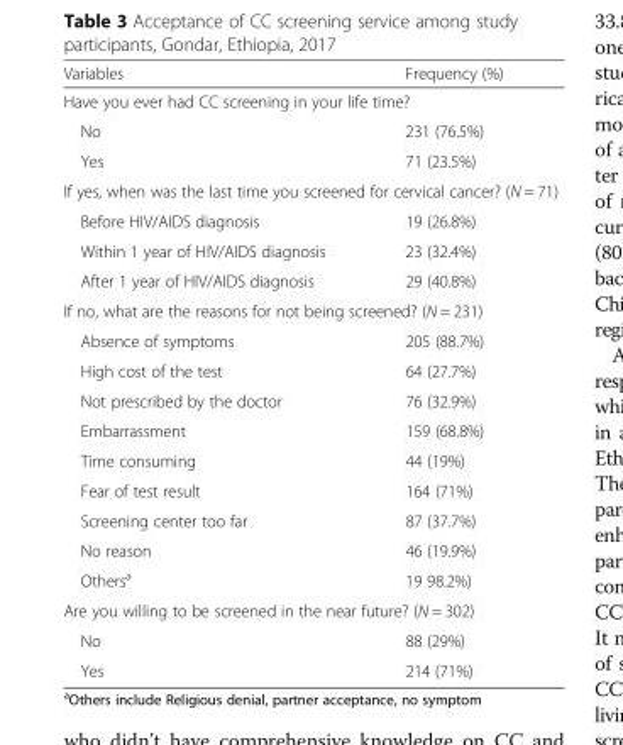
<table><thead><tr><td>Variables</td><td>Frequency (%)</td></tr></thead><tbody><tr><td colspan="2">Have you ever had CC screening in your life time?</td></tr><tr><td>No</td><td>231 (76.5%)</td></tr><tr><td>Yes</td><td>71 (23.5%)</td></tr><tr><td colspan="2">If yes, when was the last time you screened for cervical cancer? (N = 71)</td></tr><tr><td>Before HIV/AIDS diagnosis</td><td>19 (26.8%)</td></tr><tr><td>Within 1 year of HIV/AIDS diagnosis</td><td>23 (32.4%)</td></tr><tr><td>After 1 year of HIV/AIDS diagnosis</td><td>29 (40.8%)</td></tr><tr><td colspan="2">If no, what are the reasons for not being screened? (N = 231)</td></tr><tr><td>Absence of symptoms</td><td>205 (88.7%)</td></tr><tr><td>High cost of the test</td><td>64 (27.7%)</td></tr><tr><td>Not prescribed by the doctor</td><td>76 (32.9%)</td></tr><tr><td>Embarrassment</td><td>159 (68.8%)</td></tr><tr><td>Time consuming</td><td>44 (19%)</td></tr><tr><td>Fear of test result</td><td>164 (71%)</td></tr><tr><td>Screening center too far</td><td>87 (37.7%)</td></tr><tr><td>No reason</td><td>46 (19.9%)</td></tr><tr><td>Others<sup>a</sup></td><td>19 98.2%)</td></tr><tr><td colspan="2">Are you willing to be screened in the near future? (N = 302)</td></tr><tr><td>No</td><td>88 (29%)</td></tr><tr><td>Yes</td><td>214 (71%)</td></tr></tbody></table>